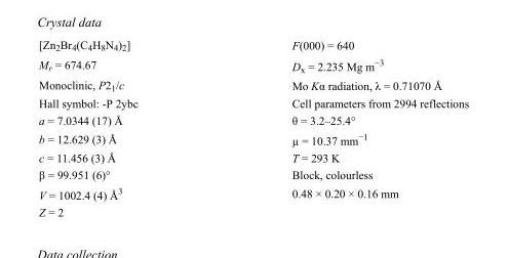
<table><tbody><tr><td>[Zn<sub>2</sub>Br<sub>4</sub>(C<sub>4</sub>H<sub>8</sub>N<sub>4</sub>)<sub>2</sub>]</td><td>F(000) = 640</td></tr><tr><td>M<sub>r</sub> = 674.67</td><td>D<sub>x</sub> = 2.235 Mg m<sup>−3</sup></td></tr><tr><td>Monoclinic, P2<sub>1</sub>/c</td><td>Mo Kα radiation, λ = 0.71070 Å</td></tr><tr><td>Hall symbol: -P 2ybc</td><td>Cell parameters from 2994 reflections</td></tr><tr><td>a = 7.0344 (17) Å</td><td>θ = 3.2–25.4°</td></tr><tr><td>b = 12.629 (3) Å</td><td>µ = 10.37 mm<sup>−1</sup></td></tr><tr><td>c = 11.456 (3) Å</td><td>T = 293 K</td></tr><tr><td>β = 99.951 (6)°</td><td>Block, colourless</td></tr><tr><td>V = 1002.4 (4) Å<sup>3</sup></td><td>0.48 × 0.20 × 0.16 mm</td></tr><tr><td>Z = 2</td><td></td></tr></tbody></table>